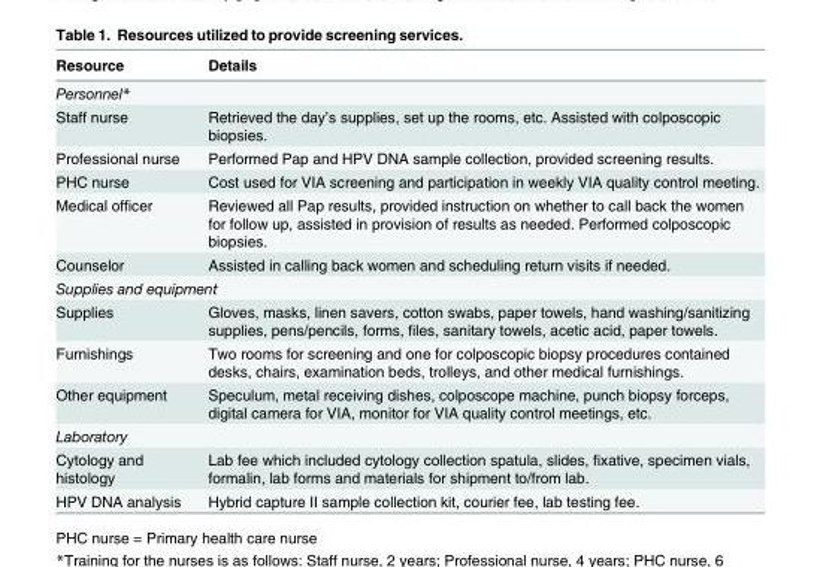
<table><thead><tr><td>Resource</td><td>Details</td></tr></thead><tbody><tr><td colspan="2">Personnel*</td></tr><tr><td>Staff nurse</td><td>Retrieved the day’s supplies, set up the rooms, etc. Assisted with colposcopic biopsies.</td></tr><tr><td>Professional nurse</td><td>Performed Pap and HPV DNA sample collection, provided screening results.</td></tr><tr><td>PHC nurse</td><td>Cost used for VIA screening and participation in weekly VIA quality control meeting.</td></tr><tr><td>Medical officer</td><td>Reviewed all Pap results, provided instruction on whether to call back the women for follow up, assisted in provision of results as needed. Performed colposcopic biopsies.</td></tr><tr><td>Counselor</td><td>Assisted in calling back women and scheduling return visits if needed.</td></tr><tr><td colspan="2">Supplies and equipment</td></tr><tr><td>Supplies</td><td>Gloves, masks, linen savers, cotton swabs, paper towels, hand washing/sanitizing supplies, pens/pencils, forms, files, sanitary towels, acetic acid, paper towels.</td></tr><tr><td>Furnishings</td><td>Two rooms for screening and one for colposcopic biopsy procedures contained desks, chairs, examination beds, trolleys, and other medical furnishings.</td></tr><tr><td>Other equipment</td><td>Speculum, metal receiving dishes, colposcope machine, punch biopsy forceps, digital camera for VIA, monitor for VIA quality control meetings, etc.</td></tr><tr><td colspan="2">Laboratory</td></tr><tr><td>Cytology and histology</td><td>Lab fee which included cytology collection spatula, slides, fixative, specimen vials, formalin, lab forms and materials for shipment to/from lab.</td></tr><tr><td>HPV DNA analysis</td><td>Hybrid capture II sample collection kit, courier fee, lab testing fee.</td></tr></tbody></table>